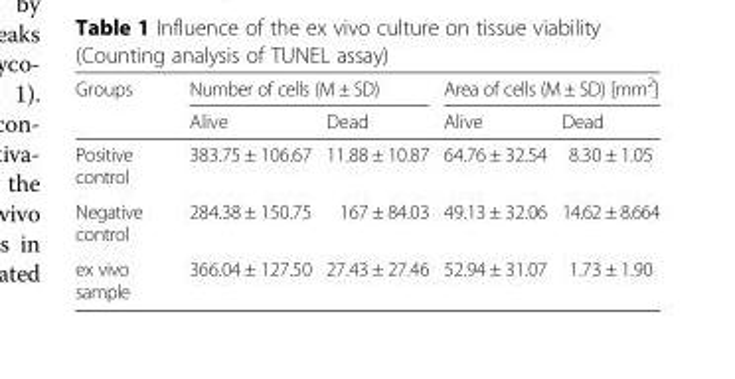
<table><thead><tr><td rowspan="2">Groups</td><td colspan="2">Number of cells (M ± SD)</td><td colspan="2">Area of cells (M ± SD) [mm<sup>2</sup>]</td></tr><tr><td>Alive</td><td>Dead</td><td>Alive</td><td>Dead</td></tr></thead><tbody><tr><td>Positive control</td><td>383.75 ± 106.67</td><td>11.88 ± 10.87</td><td>64.76 ± 32.54</td><td>8.30 ± 1.05</td></tr><tr><td>Negative control</td><td>284.38 ± 150.75</td><td>167 ± 84.03</td><td>49.13 ± 32.06</td><td>14.62 ± 8.664</td></tr><tr><td>ex vivo sample</td><td>366.04 ± 127.50</td><td>27.43 ± 27.46</td><td>52.94 ± 31.07</td><td>1.73 ± 1.90</td></tr></tbody></table>